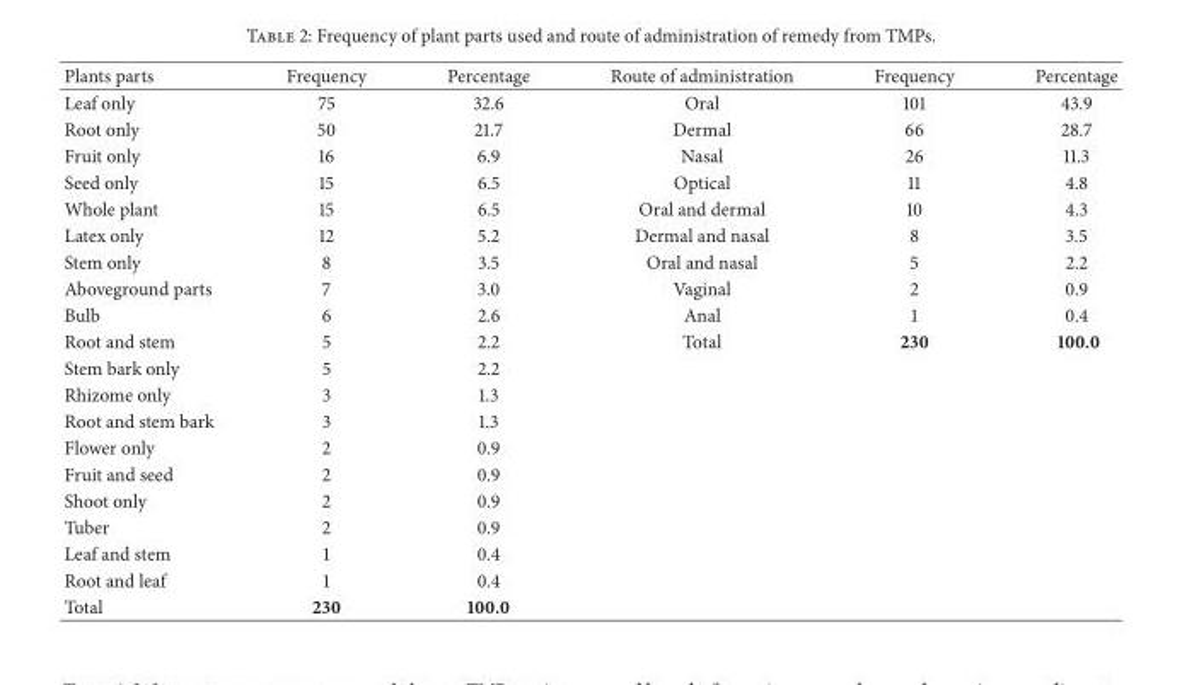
<table><thead><tr><td>Plants parts</td><td>Frequency</td><td>Percentage</td><td>Route of administration</td><td>Frequency</td><td>Percentage</td></tr></thead><tbody><tr><td>Leaf only</td><td>75</td><td>32.6</td><td>Oral</td><td>101</td><td>43.9</td></tr><tr><td>Root only</td><td>50</td><td>21.7</td><td>Dermal</td><td>66</td><td>28.7</td></tr><tr><td>Fruit only</td><td>16</td><td>6.9</td><td>Nasal</td><td>26</td><td>11.3</td></tr><tr><td>Seed only</td><td>15</td><td>6.5</td><td>Optical</td><td>11</td><td>4.8</td></tr><tr><td>Whole plant</td><td>15</td><td>6.5</td><td>Oral and dermal</td><td>10</td><td>4.3</td></tr><tr><td>Latex only</td><td>12</td><td>5.2</td><td>Dermal and nasal</td><td>8</td><td>3.5</td></tr><tr><td>Stem only</td><td>8</td><td>3.5</td><td>Oral and nasal</td><td>5</td><td>2.2</td></tr><tr><td>Aboveground parts</td><td>7</td><td>3.0</td><td>Vaginal</td><td>2</td><td>0.9</td></tr><tr><td>Bulb</td><td>6</td><td>2.6</td><td>Anal</td><td>1</td><td>0.4</td></tr><tr><td>Root and stem</td><td>5</td><td>2.2</td><td>Total</td><td>230</td><td>100.0</td></tr><tr><td>Stem bark only</td><td>5</td><td>2.2</td><td></td><td></td><td></td></tr><tr><td>Rhizome only</td><td>3</td><td>1.3</td><td></td><td></td><td></td></tr><tr><td>Root and stem bark</td><td>3</td><td>1.3</td><td></td><td></td><td></td></tr><tr><td>Flower only</td><td>2</td><td>0.9</td><td></td><td></td><td></td></tr><tr><td>Fruit and seed</td><td>2</td><td>0.9</td><td></td><td></td><td></td></tr><tr><td>Shoot only</td><td>2</td><td>0.9</td><td></td><td></td><td></td></tr><tr><td>Tuber</td><td>2</td><td>0.9</td><td></td><td></td><td></td></tr><tr><td>Leaf and stem</td><td>1</td><td>0.4</td><td></td><td></td><td></td></tr><tr><td>Root and leaf</td><td>1</td><td>0.4</td><td></td><td></td><td></td></tr><tr><td>Total</td><td>230</td><td>100.0</td><td></td><td></td><td></td></tr></tbody></table>